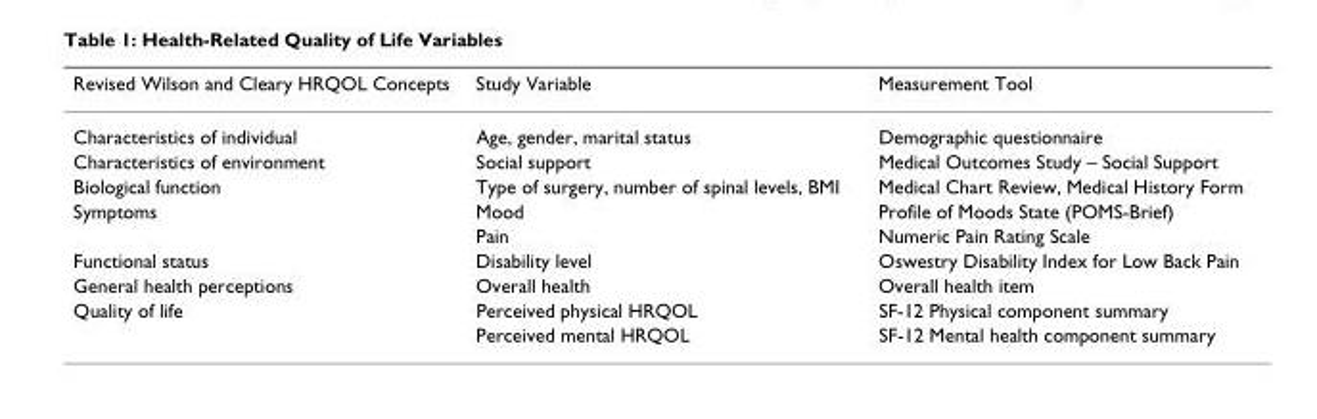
<table><thead><tr><td>Revised Wilson and Cleary HRQOL Concepts</td><td>Study Variable</td><td>Measurement Tool</td></tr></thead><tbody><tr><td>Characteristics of individual</td><td>Age, gender, marital status</td><td>Demographic questionnaire</td></tr><tr><td>Characteristics of environment</td><td>Social support</td><td>Medical Outcomes Study – Social Support</td></tr><tr><td>Biological function</td><td>Type of surgery, number of spinal levels, BMI</td><td>Medical Chart Review, Medical History Form</td></tr><tr><td rowspan="2">Symptoms</td><td>Mood</td><td>Profile of Moods State (POMS-Brief)</td></tr><tr><td>Pain</td><td>Numeric Pain Rating Scale</td></tr><tr><td>Functional status</td><td>Disability level</td><td>Oswestry Disability Index for Low Back Pain</td></tr><tr><td>General health perceptions</td><td>Overall health</td><td>Overall health item</td></tr><tr><td rowspan="2">Quality of life</td><td>Perceived physical HRQOL</td><td>SF-12 Physical component summary</td></tr><tr><td>Perceived mental HRQOL</td><td>SF-12 Mental health component summary</td></tr></tbody></table>